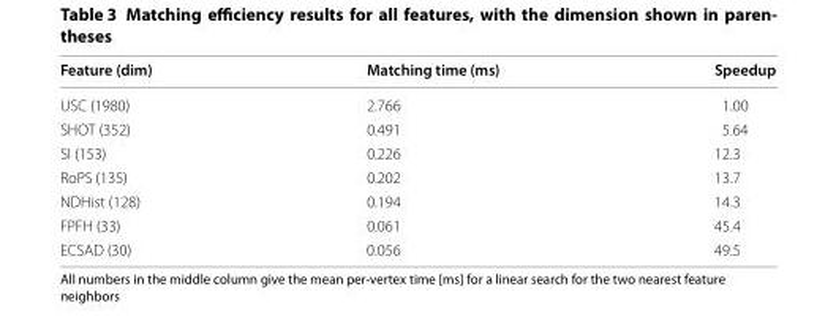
<table><thead><tr><td>Feature (dim)</td><td>Matching time (ms)</td><td>Speedup</td></tr></thead><tbody><tr><td>USC (1980)</td><td>2.766</td><td>1.00</td></tr><tr><td>SHOT (352)</td><td>0.491</td><td>5.64</td></tr><tr><td>SI (153)</td><td>0.226</td><td>12.3</td></tr><tr><td>RoPS (135)</td><td>0.202</td><td>13.7</td></tr><tr><td>NDHist (128)</td><td>0.194</td><td>14.3</td></tr><tr><td>FPFH (33)</td><td>0.061</td><td>45.4</td></tr><tr><td>ECSAD (30)</td><td>0.056</td><td>49.5</td></tr></tbody></table>